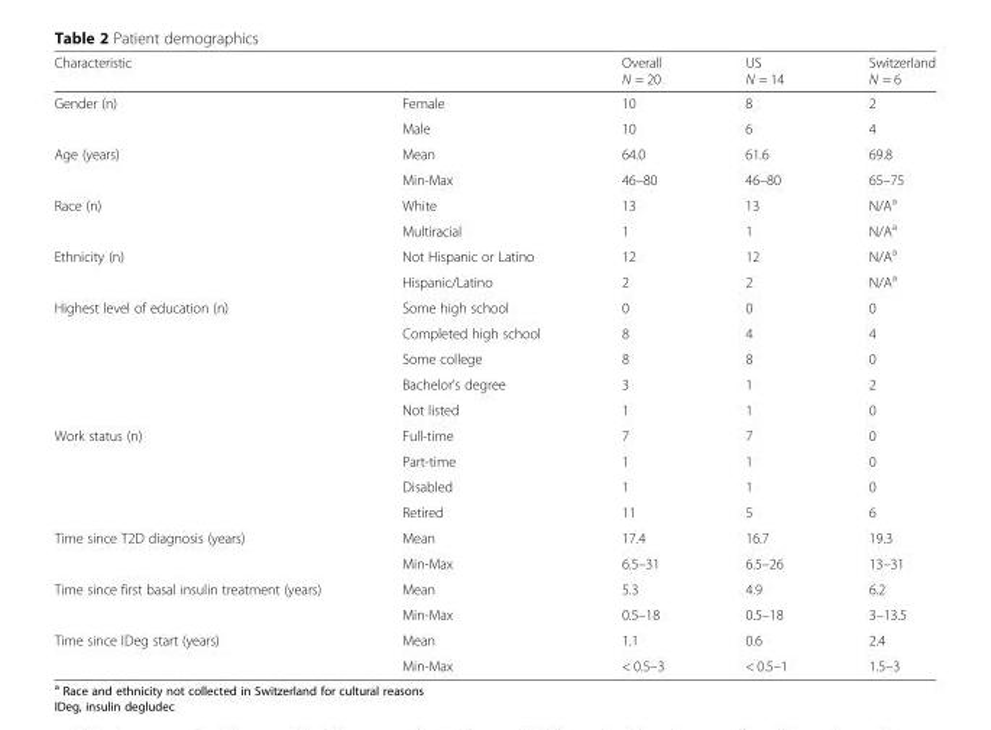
<table><thead><tr><td>Characteristic</td><td></td><td>Overall N = 20</td><td>US N = 14</td><td>Switzerland N = 6</td></tr></thead><tbody><tr><td rowspan="2">Gender (n)</td><td>Female</td><td>10</td><td>8</td><td>2</td></tr><tr><td>Male</td><td>10</td><td>6</td><td>4</td></tr><tr><td rowspan="2">Age (years)</td><td>Mean</td><td>64.0</td><td>61.6</td><td>69.8</td></tr><tr><td>Min-Max</td><td>46–80</td><td>46–80</td><td>65–75</td></tr><tr><td rowspan="2">Race (n)</td><td>White</td><td>13</td><td>13</td><td>N/A<sup>a</sup></td></tr><tr><td>Multiracial</td><td>1</td><td>1</td><td>N/A<sup>a</sup></td></tr><tr><td rowspan="2">Ethnicity (n)</td><td>Not Hispanic or Latino</td><td>12</td><td>12</td><td>N/A<sup>a</sup></td></tr><tr><td>Hispanic/Latino</td><td>2</td><td>2</td><td>N/A<sup>a</sup></td></tr><tr><td rowspan="5">Highest level of education (n)</td><td>Some high school</td><td>0</td><td>0</td><td>0</td></tr><tr><td>Completed high school</td><td>8</td><td>4</td><td>4</td></tr><tr><td>Some college</td><td>8</td><td>8</td><td>0</td></tr><tr><td>Bachelor’s degree</td><td>3</td><td>1</td><td>2</td></tr><tr><td>Not listed</td><td>1</td><td>1</td><td>0</td></tr><tr><td rowspan="4">Work status (n)</td><td>Full-time</td><td>7</td><td>7</td><td>0</td></tr><tr><td>Part-time</td><td>1</td><td>1</td><td>0</td></tr><tr><td>Disabled</td><td>1</td><td>1</td><td>0</td></tr><tr><td>Retired</td><td>11</td><td>5</td><td>6</td></tr><tr><td rowspan="2">Time since T2D diagnosis (years)</td><td>Mean</td><td>17.4</td><td>16.7</td><td>19.3</td></tr><tr><td>Min-Max</td><td>6.5–31</td><td>6.5–26</td><td>13–31</td></tr><tr><td rowspan="2">Time since first basal insulin treatment (years)</td><td>Mean</td><td>5.3</td><td>4.9</td><td>6.2</td></tr><tr><td>Min-Max</td><td>0.5–18</td><td>0.5–18</td><td>3–13.5</td></tr><tr><td rowspan="2">Time since IDeg start (years)</td><td>Mean</td><td>1.1</td><td>0.6</td><td>2.4</td></tr><tr><td>Min-Max</td><td>&lt; 0.5–3</td><td>&lt; 0.5–1</td><td>1.5–3</td></tr></tbody></table>